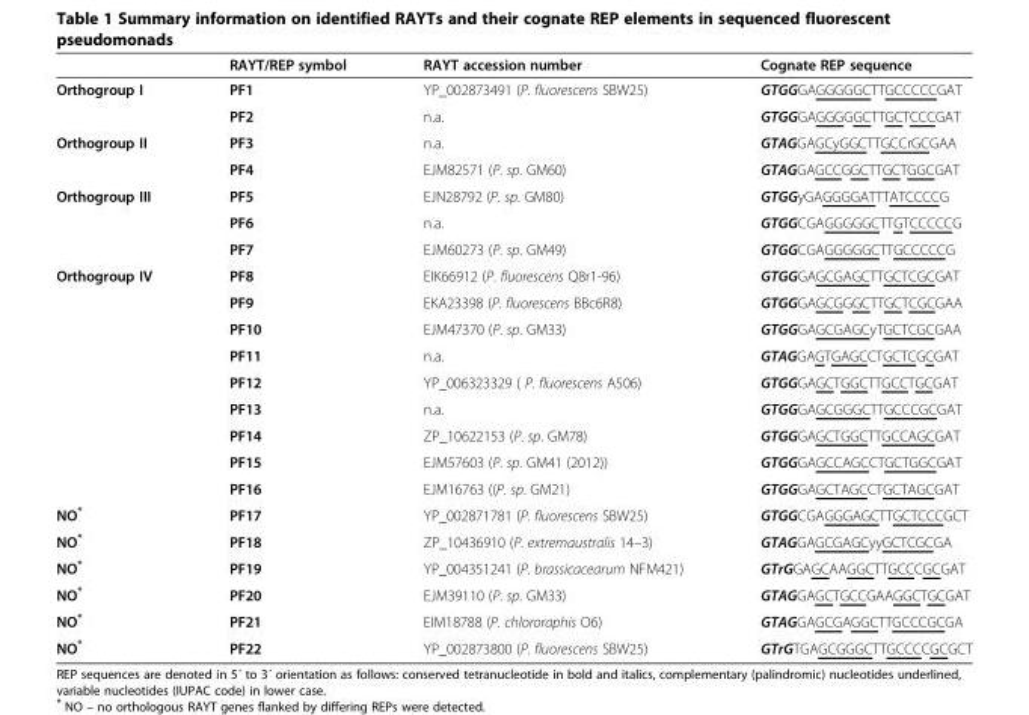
<table><thead><tr><td></td><td>RAYT/REP symbol</td><td>RAYT accession number</td><td>Cognate REP sequence</td></tr></thead><tbody><tr><td rowspan="2">Orthogroup I</td><td>PF1</td><td>YP_002873491 (P. fluorescens SBW25)</td><td>GTGGGAGGGGGCTTGCCCCCGAT</td></tr><tr><td>PF2</td><td>n.a.</td><td>GTGGGAGGGGGCTTGCTCCCGAT</td></tr><tr><td rowspan="2">Orthogroup II</td><td>PF3</td><td>n.a.</td><td>GTAGGAGCyGGCTTGCCrGCGAA</td></tr><tr><td>PF4</td><td>EJM82571 (P. sp. GM60)</td><td>GTAGGAGCCGGCTTGCTGGCGAT</td></tr><tr><td rowspan="3">Orthogroup III</td><td>PF5</td><td>EJN28792 (P. sp. GM80)</td><td>GTGGyGAGGGGATTTATCCCCG</td></tr><tr><td>PF6</td><td>n.a.</td><td>GTGGCGAGGGGGCTTGTCCCCCG</td></tr><tr><td>PF7</td><td>EJM60273 (P. sp. GM49)</td><td>GTGGCGAGGGGGCTTGCCCCCG</td></tr><tr><td rowspan="9">Orthogroup IV</td><td>PF8</td><td>EIK66912 (P. fluorescens Q8r1-96)</td><td>GTGGGAGCGAGCTTGCTCGCGAT</td></tr><tr><td>PF9</td><td>EKA23398 (P. fluorescens BBc6R8)</td><td>GTGGGAGCGGGCTTGCTCGCGAA</td></tr><tr><td>PF10</td><td>EJM47370 (P. sp. GM33)</td><td>GTGGGAGCGAGCyTGCTCGCGAA</td></tr><tr><td>PF11</td><td>n.a.</td><td>GTAGGAGTGAGCCTGCTCGCGAT</td></tr><tr><td>PF12</td><td>YP_006323329 ( P. fluorescens A506)</td><td>GTGGGAGCTGGCTTGCCTGCGAT</td></tr><tr><td>PF13</td><td>n.a.</td><td>GTGGGAGCGGGCTTGCCCGCGAT</td></tr><tr><td>PF14</td><td>ZP_10622153 (P. sp. GM78)</td><td>GTGGGAGCTGGCTTGCCAGCGAT</td></tr><tr><td>PF15</td><td>EJM57603 (P. sp. GM41 (2012))</td><td>GTGGGAGCCAGCCTGCTGGCGAT</td></tr><tr><td>PF16</td><td>EJM16763 ((P. sp. GM21)</td><td>GTGGGAGCTAGCCTGCTAGCGAT</td></tr><tr><td>NO*</td><td>PF17</td><td>YP_002871781 (P. fluorescens SBW25)</td><td>GTGGCGAGGGAGCTTGCTCCCGCT</td></tr><tr><td>NO*</td><td>PF18</td><td>ZP_10436910 (P. extremaustralis 14–3)</td><td>GTAGGAGCGAGCyyGCTCGCGA</td></tr><tr><td>NO*</td><td>PF19</td><td>YP_004351241 (P. brassicacearum NFM421)</td><td>GTrGGAGCAAGGCTTGCCCGCGAT</td></tr><tr><td>NO*</td><td>PF20</td><td>EJM39110 (P. sp. GM33)</td><td>GTAGGAGCTGCCGAAGGCTGCGAT</td></tr><tr><td>NO*</td><td>PF21</td><td>EIM18788 (P. chlororaphis O6)</td><td>GTAGGAGCGAGGCTTGCCCGCGA</td></tr><tr><td>NO*</td><td>PF22</td><td>YP_002873800 (P. fluorescens SBW25)</td><td>GTrGTGAGCGGGCTTGCCCCGCGCT</td></tr></tbody></table>